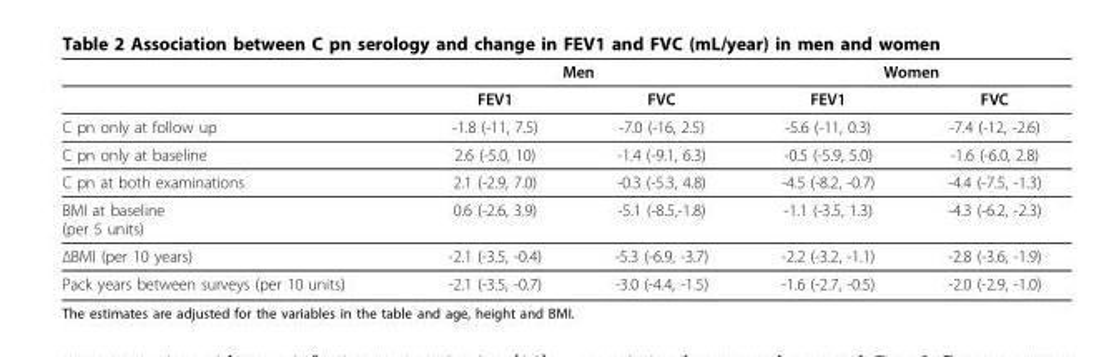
<table><thead><tr><td rowspan="2"></td><td colspan="2">Men</td><td colspan="2">Women</td></tr><tr><td>FEV1</td><td>FVC</td><td>FEV1</td><td>FVC</td></tr></thead><tbody><tr><td>C pn only at follow up</td><td>-1.8 (-11, 7.5)</td><td>-7.0 (-16, 2.5)</td><td>-5.6 (-11, 0.3)</td><td>-7.4 (-12, -2.6)</td></tr><tr><td>C pn only at baseline</td><td>2.6 (-5.0, 10)</td><td>-1.4 (-9.1, 6.3)</td><td>-0.5 (-5.9, 5.0)</td><td>-1.6 (-6.0, 2.8)</td></tr><tr><td>C pn at both examinations</td><td>2.1 (-2.9, 7.0)</td><td>-0.3 (-5.3, 4.8)</td><td>-4.5 (-8.2, -0.7)</td><td>-4.4 (-7.5, -1.3)</td></tr><tr><td>BMI at baseline (per 5 units)</td><td>0.6 (-2.6, 3.9)</td><td>-5.1 (-8.5,-1.8)</td><td>-1.1 (-3.5, 1.3)</td><td>-4.3 (-6.2, -2.3)</td></tr><tr><td>ΔBMI (per 10 years)</td><td>-2.1 (-3.5, -0.4)</td><td>-5.3 (-6.9, -3.7)</td><td>-2.2 (-3.2, -1.1)</td><td>-2.8 (-3.6, -1.9)</td></tr><tr><td>Pack years between surveys (per 10 units)</td><td>-2.1 (-3.5, -0.7)</td><td>-3.0 (-4.4, -1.5)</td><td>-1.6 (-2.7, -0.5)</td><td>-2.0 (-2.9, -1.0)</td></tr></tbody></table>